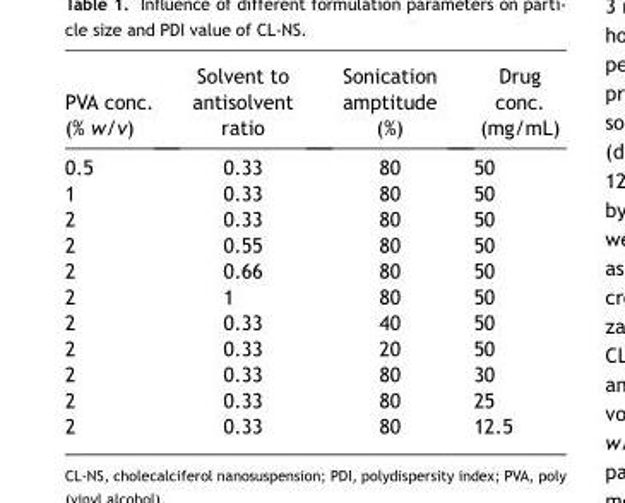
<table><thead><tr><td>PVA conc. (% w/v)</td><td>Solvent to antisolvent ratio</td><td>Sonication amptitude (%)</td><td>Drug conc. (mg/mL)</td></tr></thead><tbody><tr><td>0.5</td><td>0.33</td><td>80</td><td>50</td></tr><tr><td>1</td><td>0.33</td><td>80</td><td>50</td></tr><tr><td>2</td><td>0.33</td><td>80</td><td>50</td></tr><tr><td>2</td><td>0.55</td><td>80</td><td>50</td></tr><tr><td>2</td><td>0.66</td><td>80</td><td>50</td></tr><tr><td>2</td><td>1</td><td>80</td><td>50</td></tr><tr><td>2</td><td>0.33</td><td>40</td><td>50</td></tr><tr><td>2</td><td>0.33</td><td>20</td><td>50</td></tr><tr><td>2</td><td>0.33</td><td>80</td><td>30</td></tr><tr><td>2</td><td>0.33</td><td>80</td><td>25</td></tr><tr><td>2</td><td>0.33</td><td>80</td><td>12.5</td></tr></tbody></table>